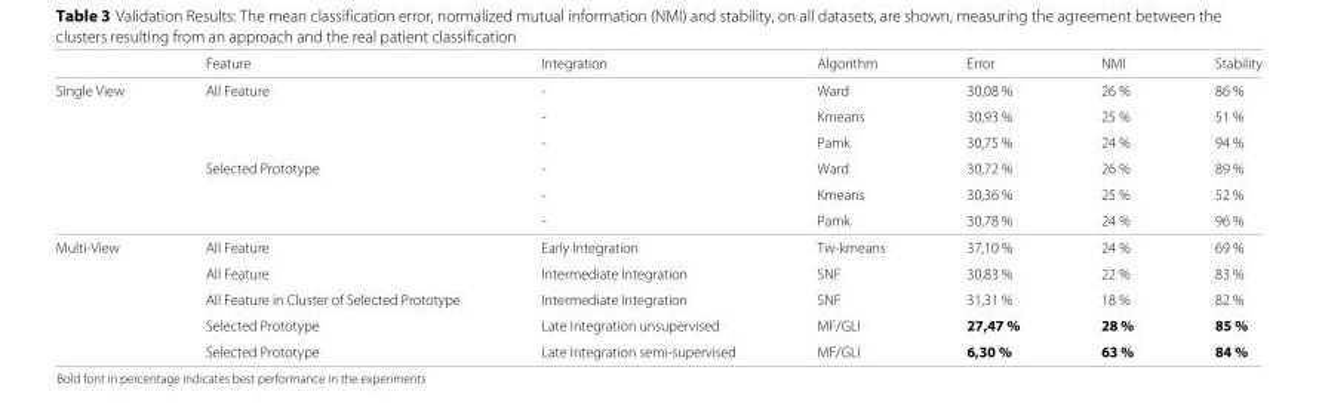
<table><thead><tr><td></td><td>Feature</td><td>Integration</td><td>Algorithm</td><td>Error</td><td>NMI</td><td>Stability</td></tr></thead><tbody><tr><td rowspan="6">Single View</td><td>All Feature</td><td>-</td><td>Ward</td><td>30,08 %</td><td>26 %</td><td>86 %</td></tr><tr><td></td><td>-</td><td>Kmeans</td><td>30,93 %</td><td>25 %</td><td>51 %</td></tr><tr><td></td><td>-</td><td>Pamk</td><td>30,75 %</td><td>24 %</td><td>94 %</td></tr><tr><td>Selected Prototype</td><td>-</td><td>Ward</td><td>30,72 %</td><td>26 %</td><td>89 %</td></tr><tr><td></td><td>-</td><td>Kmeans</td><td>30,36 %</td><td>25 %</td><td>52 %</td></tr><tr><td></td><td>-</td><td>Pamk</td><td>30,78 %</td><td>24 %</td><td>96 %</td></tr><tr><td rowspan="5">Multi-View</td><td>All Feature</td><td>Early Integration</td><td>Tw-kmeans</td><td>37,10 %</td><td>24 %</td><td>69 %</td></tr><tr><td>All Feature</td><td>Intermediate Integration</td><td>SNF</td><td>30,83 %</td><td>22 %</td><td>83 %</td></tr><tr><td>All Feature in Cluster of Selected Prototype</td><td>Intermediate Integration</td><td>SNF</td><td>31,31 %</td><td>18 %</td><td>82 %</td></tr><tr><td>Selected Prototype</td><td>Late Integration unsupervised</td><td>MF/GLI</td><td>27,47 %</td><td>28 %</td><td>85 %</td></tr><tr><td>Selected Prototype</td><td>Late Integration semi-supervised</td><td>MF/GLI</td><td>6,30 %</td><td>63 %</td><td>84 %</td></tr></tbody></table>